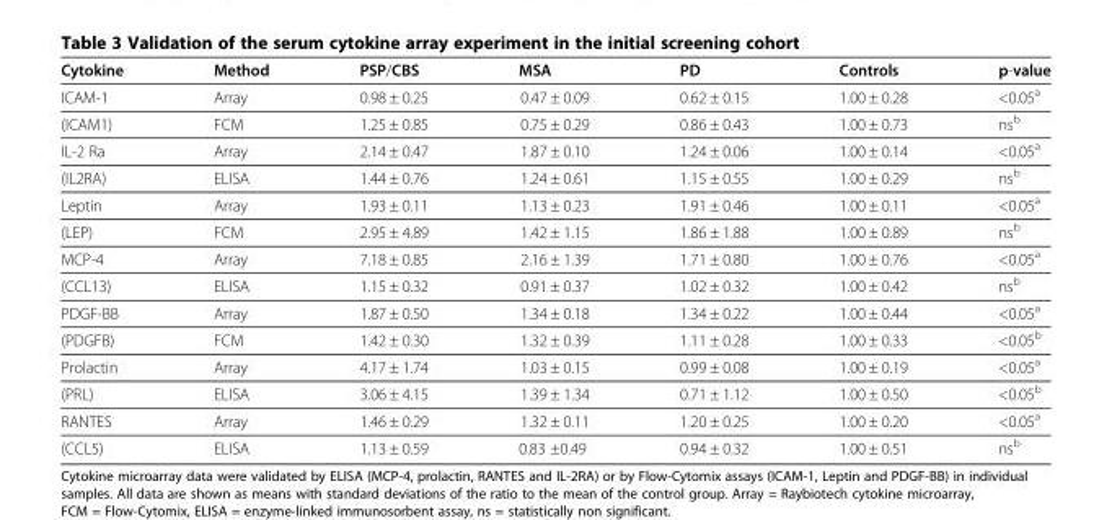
<table><thead><tr><td>Cytokine</td><td>Method</td><td>PSP/CBS</td><td>MSA</td><td>PD</td><td>Controls</td><td>p-value</td></tr></thead><tbody><tr><td>ICAM-1</td><td>Array</td><td>0.98 ± 0.25</td><td>0.47 ± 0.09</td><td>0.62 ± 0.15</td><td>1.00 ± 0.28</td><td>&lt;0.05<sup>a</sup></td></tr><tr><td>(ICAM1)</td><td>FCM</td><td>1.25 ± 0.85</td><td>0.75 ± 0.29</td><td>0.86 ± 0.43</td><td>1.00 ± 0.73</td><td>ns<sup>b</sup></td></tr><tr><td>IL-2 Ra</td><td>Array</td><td>2.14 ± 0.47</td><td>1.87 ± 0.10</td><td>1.24 ± 0.06</td><td>1.00 ± 0.14</td><td>&lt;0.05<sup>a</sup></td></tr><tr><td>(IL2RA)</td><td>ELISA</td><td>1.44 ± 0.76</td><td>1.24 ± 0.61</td><td>1.15 ± 0.55</td><td>1.00 ± 0.29</td><td>ns<sup>b</sup></td></tr><tr><td>Leptin</td><td>Array</td><td>1.93 ± 0.11</td><td>1.13 ± 0.23</td><td>1.91 ± 0.46</td><td>1.00 ± 0.11</td><td>&lt;0.05<sup>a</sup></td></tr><tr><td>(LEP)</td><td>FCM</td><td>2.95 ± 4.89</td><td>1.42 ± 1.15</td><td>1.86 ± 1.88</td><td>1.00 ± 0.89</td><td>ns<sup>b</sup></td></tr><tr><td>MCP-4</td><td>Array</td><td>7.18 ± 0.85</td><td>2.16 ± 1.39</td><td>1.71 ± 0.80</td><td>1.00 ± 0.76</td><td>&lt;0.05<sup>a</sup></td></tr><tr><td>(CCL13)</td><td>ELISA</td><td>1.15 ± 0.32</td><td>0.91 ± 0.37</td><td>1.02 ± 0.32</td><td>1.00 ± 0.42</td><td>ns<sup>b</sup></td></tr><tr><td>PDGF-BB</td><td>Array</td><td>1.87 ± 0.50</td><td>1.34 ± 0.18</td><td>1.34 ± 0.22</td><td>1.00 ± 0.44</td><td>&lt;0.05<sup>a</sup></td></tr><tr><td>(PDGFB)</td><td>FCM</td><td>1.42 ± 0.30</td><td>1.32 ± 0.39</td><td>1.11 ± 0.28</td><td>1.00 ± 0.33</td><td>&lt;0.05<sup>b</sup></td></tr><tr><td>Prolactin</td><td>Array</td><td>4.17 ± 1.74</td><td>1.03 ± 0.15</td><td>0.99 ± 0.08</td><td>1.00 ± 0.19</td><td>&lt;0.05<sup>a</sup></td></tr><tr><td>(PRL)</td><td>ELISA</td><td>3.06 ± 4.15</td><td>1.39 ± 1.34</td><td>0.71 ± 1.12</td><td>1.00 ± 0.50</td><td>&lt;0.05<sup>b</sup></td></tr><tr><td>RANTES</td><td>Array</td><td>1.46 ± 0.29</td><td>1.32 ± 0.11</td><td>1.20 ± 0.25</td><td>1.00 ± 0.20</td><td>&lt;0.05<sup>a</sup></td></tr><tr><td>(CCL5)</td><td>ELISA</td><td>1.13 ± 0.59</td><td>0.83 ±0.49</td><td>0.94 ± 0.32</td><td>1.00 ± 0.51</td><td>ns<sup>b</sup></td></tr></tbody></table>